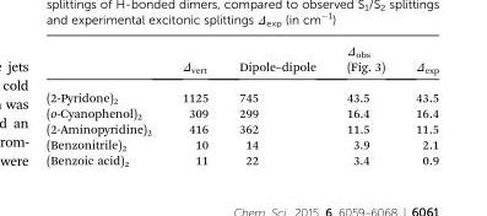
<table><thead><tr><td></td><td>Δ<sub>vert</sub></td><td>Dipole–dipole</td><td>Δ<sub>obs</sub> (Fig. 3)</td><td>Δ<sub>exp</sub></td></tr></thead><tbody><tr><td>(2-Pyridone)<sub>2</sub></td><td>1125</td><td>745</td><td>43.5</td><td>43.5</td></tr><tr><td>(o-Cyanophenol)<sub>2</sub></td><td>309</td><td>299</td><td>16.4</td><td>16.4</td></tr><tr><td>(2-Aminopyridine)<sub>2</sub></td><td>416</td><td>362</td><td>11.5</td><td>11.5</td></tr><tr><td>(Benzonitrile)<sub>2</sub></td><td>10</td><td>14</td><td>3.9</td><td>2.1</td></tr><tr><td>(Benzoic acid)<sub>2</sub></td><td>11</td><td>22</td><td>3.4</td><td>0.9</td></tr></tbody></table>